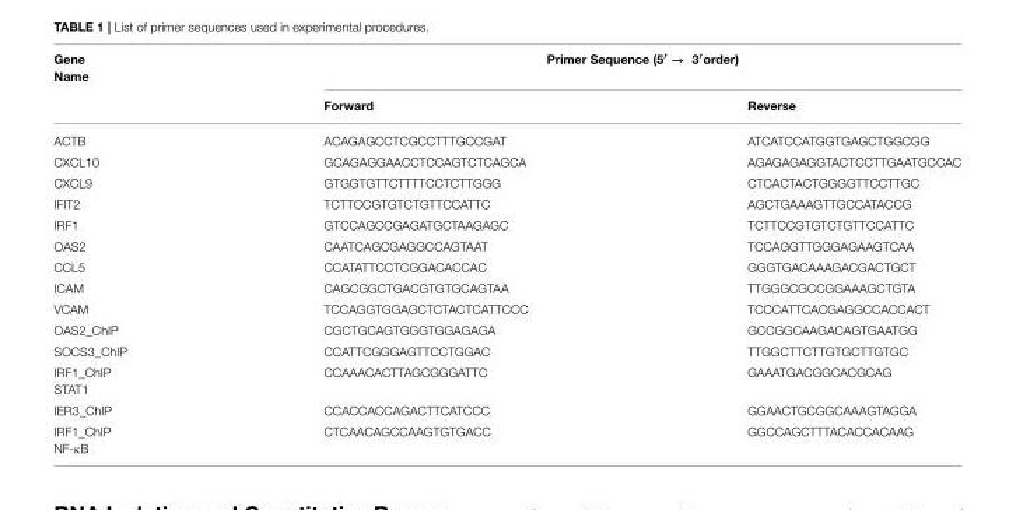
<table><thead><tr><td rowspan="2">Gene Name</td><td colspan="2">Primer Sequence (5<sup>′</sup> → 3<sup>′</sup>order)</td></tr><tr><td>Forward</td><td>Reverse</td></tr></thead><tbody><tr><td>ACTB</td><td>ACAGAGCCTCGCCTTTGCCGAT</td><td>ATCATCCATGGTGAGCTGGCGG</td></tr><tr><td>CXCL10</td><td>GCAGAGGAACCTCCAGTCTCAGCA</td><td>AGAGAGAGGTACTCCTTGAATGCCAC</td></tr><tr><td>CXCL9</td><td>GTGGTGTTCTTTTCCTCTTGGG</td><td>CTCACTACTGGGGTTCCTTGC</td></tr><tr><td>IFIT2</td><td>TCTTCCGTGTCTGTTCCATTC</td><td>AGCTGAAAGTTGCCATACCG</td></tr><tr><td>IRF1</td><td>GTCCAGCCGAGATGCTAAGAGC</td><td>TCTTCCGTGTCTGTTCCATTC</td></tr><tr><td>OAS2</td><td>CAATCAGCGAGGCCAGTAAT</td><td>TCCAGGTTGGGAGAAGTCAA</td></tr><tr><td>CCL5</td><td>CCATATTCCTCGGACACCAC</td><td>GGGTGACAAAGACGACTGCT</td></tr><tr><td>ICAM</td><td>CAGCGGCTGACGTGTGCAGTAA</td><td>TTGGGCGCCGGAAAGCTGTA</td></tr><tr><td>VCAM</td><td>TCCAGGTGGAGCTCTACTCATTCCC</td><td>TCCCATTCACGAGGCCACCACT</td></tr><tr><td>OAS2_ChIP</td><td>CGCTGCAGTGGGTGGAGAGA</td><td>GCCGGCAAGACAGTGAATGG</td></tr><tr><td>SOCS3_ChIP</td><td>CCATTCGGGAGTTCCTGGAC</td><td>TTGGCTTCTTGTGCTTGTGC</td></tr><tr><td>IRF1_ChIP STAT1</td><td>CCAAACACTTAGCGGGATTC</td><td>GAAATGACGGCACGCAG</td></tr><tr><td>IER3_ChIP</td><td>CCACCACCAGACTTCATCCC</td><td>GGAACTGCGGCAAAGTAGGA</td></tr><tr><td>IRF1_ChIP NF-κB</td><td>CTCAACAGCCAAGTGTGACC</td><td>GGCCAGCTTTACACCACAAG</td></tr></tbody></table>